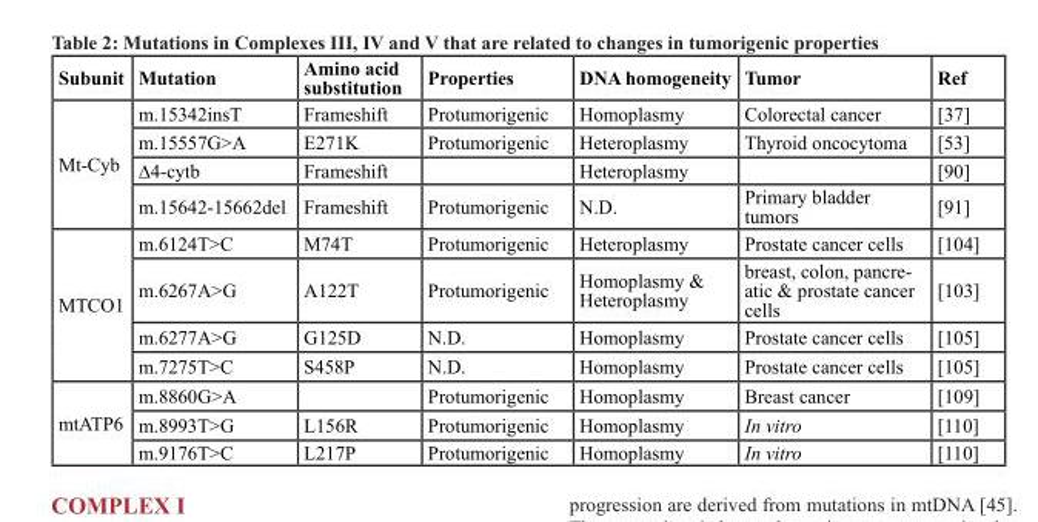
<table><thead><tr><td>Subunit</td><td>Mutation</td><td>Amino acid substitution</td><td>Properties</td><td>DNA homogeneity</td><td>Tumor</td><td>Ref</td></tr></thead><tbody><tr><td rowspan="4">Mt-Cyb</td><td>m.15342insT</td><td>Frameshift</td><td>Protumorigenic</td><td>Homoplasmy</td><td>Colorectal cancer</td><td>[37]</td></tr><tr><td>m.15557G&gt;A</td><td>E271K</td><td>Protumorigenic</td><td>Heteroplasmy</td><td>Thyroid oncocytoma</td><td>[53]</td></tr><tr><td>∆4-cytb</td><td>Frameshift</td><td></td><td>Heteroplasmy</td><td></td><td>[90]</td></tr><tr><td>m.15642-15662del</td><td>Frameshift</td><td>Protumorigenic</td><td>N.D.</td><td>Primary bladder tumors</td><td>[91]</td></tr><tr><td rowspan="4">MTCO1</td><td>m.6124T&gt;C</td><td>M74T</td><td>Protumorigenic</td><td>Heteroplasmy</td><td>Prostate cancer cells</td><td>[104]</td></tr><tr><td>m.6267A&gt;G</td><td>A122T</td><td>Protumorigenic</td><td>Homoplasmy &amp; Heteroplasmy</td><td>breast, colon, pancre- atic &amp; prostate cancer cells</td><td>[103]</td></tr><tr><td>m.6277A&gt;G</td><td>G125D</td><td>N.D.</td><td>Homoplasmy</td><td>Prostate cancer cells</td><td>[105]</td></tr><tr><td>m.7275T&gt;C</td><td>S458P</td><td>N.D.</td><td>Homoplasmy</td><td>Prostate cancer cells</td><td>[105]</td></tr><tr><td rowspan="3">mtATP6</td><td>m.8860G&gt;A</td><td></td><td>Protumorigenic</td><td>Homoplasmy</td><td>Breast cancer</td><td>[109]</td></tr><tr><td>m.8993T&gt;G</td><td>L156R</td><td>Protumorigenic</td><td>Homoplasmy</td><td>In vitro</td><td>[110]</td></tr><tr><td>m.9176T&gt;C</td><td>L217P</td><td>Protumorigenic</td><td>Homoplasmy</td><td>In vitro</td><td>[110]</td></tr></tbody></table>